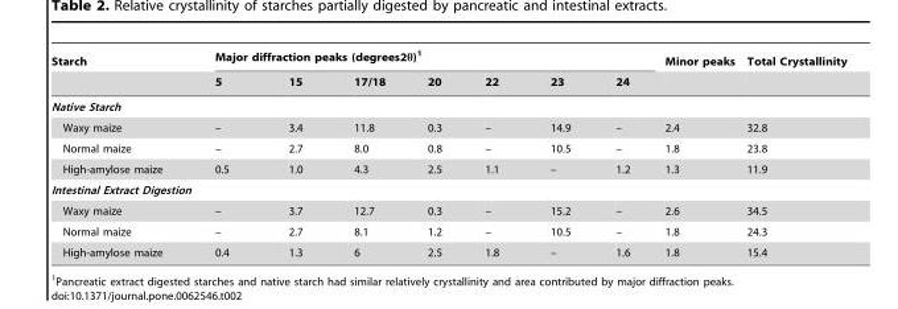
<table><thead><tr><td rowspan="2">Starch</td><td colspan="7">Major diffraction peaks (degrees2θ)<sup>1</sup></td><td rowspan="2">Minor peaks</td><td rowspan="2">Total Crystallinity</td></tr><tr><td>5</td><td>15</td><td>17/18</td><td>20</td><td>22</td><td>23</td><td>24</td></tr></thead><tbody><tr><td colspan="10">Native Starch</td></tr><tr><td>Waxy maize</td><td>–</td><td>3.4</td><td>11.8</td><td>0.3</td><td>–</td><td>14.9</td><td>–</td><td>2.4</td><td>32.8</td></tr><tr><td>Normal maize</td><td>–</td><td>2.7</td><td>8.0</td><td>0.8</td><td>–</td><td>10.5</td><td>–</td><td>1.8</td><td>23.8</td></tr><tr><td>High-amylose maize</td><td>0.5</td><td>1.0</td><td>4.3</td><td>2.5</td><td>1.1</td><td>–</td><td>1.2</td><td>1.3</td><td>11.9</td></tr><tr><td colspan="10">Intestinal Extract Digestion</td></tr><tr><td>Waxy maize</td><td>–</td><td>3.7</td><td>12.7</td><td>0.3</td><td>–</td><td>15.2</td><td>–</td><td>2.6</td><td>34.5</td></tr><tr><td>Normal maize</td><td>–</td><td>2.7</td><td>8.1</td><td>1.2</td><td>–</td><td>10.5</td><td>–</td><td>1.8</td><td>24.3</td></tr><tr><td>High-amylose maize</td><td>0.4</td><td>1.3</td><td>6</td><td>2.5</td><td>1.8</td><td>–</td><td>1.6</td><td>1.8</td><td>15.4</td></tr></tbody></table>